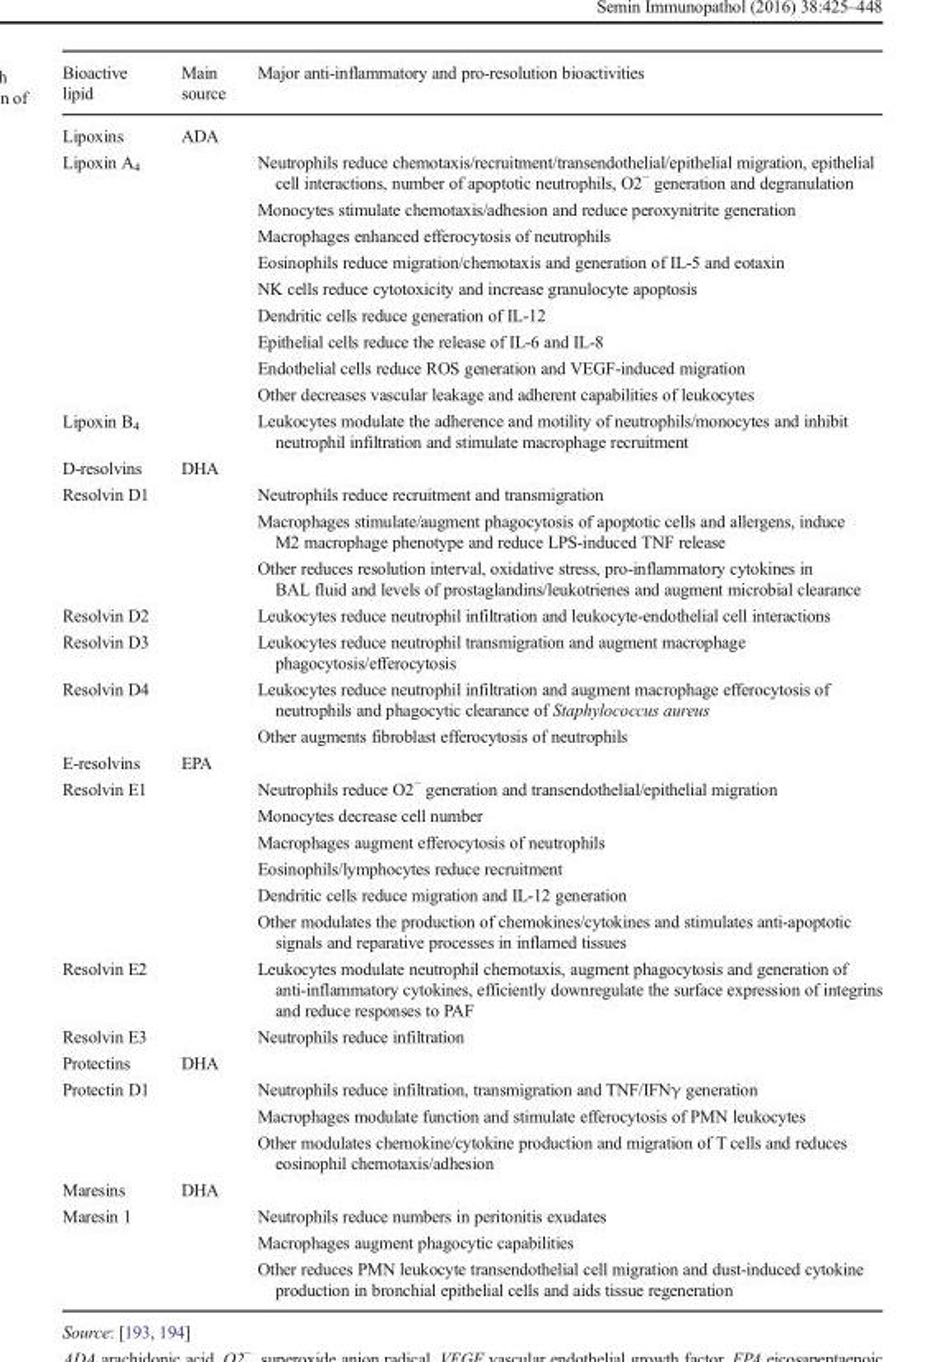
<table><thead><tr><td>Bioactive lipid</td><td>Main source</td><td>Major anti-inflammatory and pro-resolution bioactivities</td></tr></thead><tbody><tr><td>Lipoxins</td><td>ADA</td><td></td></tr><tr><td rowspan="9">Lipoxin A<sub>4</sub></td><td rowspan="9"></td><td>Neutrophils reduce chemotaxis/recruitment/transendothelial/epithelial migration, epithelial cell interactions, number of apoptotic neutrophils, O2<sup>−</sup> generation and degranulation</td></tr><tr><td>Monocytes stimulate chemotaxis/adhesion and reduce peroxynitrite generation</td></tr><tr><td>Macrophages enhanced efferocytosis of neutrophils</td></tr><tr><td>Eosinophils reduce migration/chemotaxis and generation of IL-5 and eotaxin</td></tr><tr><td>NK cells reduce cytotoxicity and increase granulocyte apoptosis</td></tr><tr><td>Dendritic cells reduce generation of IL-12</td></tr><tr><td>Epithelial cells reduce the release of IL-6 and IL-8</td></tr><tr><td>Endothelial cells reduce ROS generation and VEGF-induced migration</td></tr><tr><td>Other decreases vascular leakage and adherent capabilities of leukocytes</td></tr><tr><td>Lipoxin B<sub>4</sub></td><td></td><td>Leukocytes modulate the adherence and motility of neutrophils/monocytes and inhibit neutrophil infiltration and stimulate macrophage recruitment</td></tr><tr><td>D-resolvins</td><td>DHA</td><td></td></tr><tr><td rowspan="3">Resolvin D1</td><td rowspan="3"></td><td>Neutrophils reduce recruitment and transmigration</td></tr><tr><td>Macrophages stimulate/augment phagocytosis of apoptotic cells and allergens, induce M2 macrophage phenotype and reduce LPS-induced TNF release</td></tr><tr><td>Other reduces resolution interval, oxidative stress, pro-inflammatory cytokines in BAL fluid and levels of prostaglandins/leukotrienes and augment microbial clearance</td></tr><tr><td>Resolvin D2</td><td></td><td>Leukocytes reduce neutrophil infiltration and leukocyte-endothelial cell interactions</td></tr><tr><td>Resolvin D3</td><td></td><td>Leukocytes reduce neutrophil transmigration and augment macrophage phagocytosis/efferocytosis</td></tr><tr><td rowspan="2">Resolvin D4</td><td rowspan="2"></td><td>Leukocytes reduce neutrophil infiltration and augment macrophage efferocytosis of neutrophils and phagocytic clearance of Staphylococcus aureus</td></tr><tr><td>Other augments fibroblast efferocytosis of neutrophils</td></tr><tr><td>E-resolvins</td><td>EPA</td><td></td></tr><tr><td rowspan="6">Resolvin E1</td><td rowspan="6"></td><td>Neutrophils reduce O2<sup>−</sup> generation and transendothelial/epithelial migration</td></tr><tr><td>Monocytes decrease cell number</td></tr><tr><td>Macrophages augment efferocytosis of neutrophils</td></tr><tr><td>Eosinophils/lymphocytes reduce recruitment</td></tr><tr><td>Dendritic cells reduce migration and IL-12 generation</td></tr><tr><td>Other modulates the production of chemokines/cytokines and stimulates anti-apoptotic signals and reparative processes in inflamed tissues</td></tr><tr><td>Resolvin E2</td><td></td><td>Leukocytes modulate neutrophil chemotaxis, augment phagocytosis and generation of anti-inflammatory cytokines, efficiently downregulate the surface expression of integrins and reduce responses to PAF</td></tr><tr><td>Resolvin E3</td><td></td><td>Neutrophils reduce infiltration</td></tr><tr><td>Protectins</td><td>DHA</td><td></td></tr><tr><td rowspan="3">Protectin D1</td><td rowspan="3"></td><td>Neutrophils reduce infiltration, transmigration and TNF/IFNγ generation</td></tr><tr><td>Macrophages modulate function and stimulate efferocytosis of PMN leukocytes</td></tr><tr><td>Other modulates chemokine/cytokine production and migration of T cells and reduces eosinophil chemotaxis/adhesion</td></tr><tr><td>Maresins</td><td>DHA</td><td></td></tr><tr><td rowspan="3">Maresin 1</td><td rowspan="3"></td><td>Neutrophils reduce numbers in peritonitis exudates</td></tr><tr><td>Macrophages augment phagocytic capabilities</td></tr><tr><td>Other reduces PMN leukocyte transendothelial cell migration and dust-induced cytokine production in bronchial epithelial cells and aids tissue regeneration</td></tr></tbody></table>